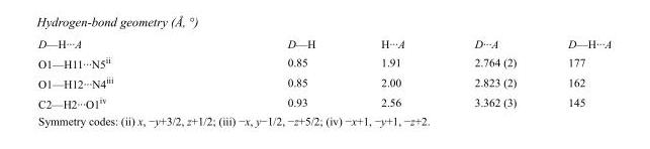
<table><tbody><tr><td>D—H···A</td><td>D—H</td><td>H···A</td><td>D···A</td><td>D—H···A</td></tr><tr><td>O1—H11···N5<sup>ii</sup></td><td>0.85</td><td>1.91</td><td>2.764 (2)</td><td>177</td></tr><tr><td>O1—H12···N4<sup>iii</sup></td><td>0.85</td><td>2.00</td><td>2.823 (2)</td><td>162</td></tr><tr><td>C2—H2···O1<sup>iv</sup></td><td>0.93</td><td>2.56</td><td>3.362 (3)</td><td>145</td></tr></tbody></table>